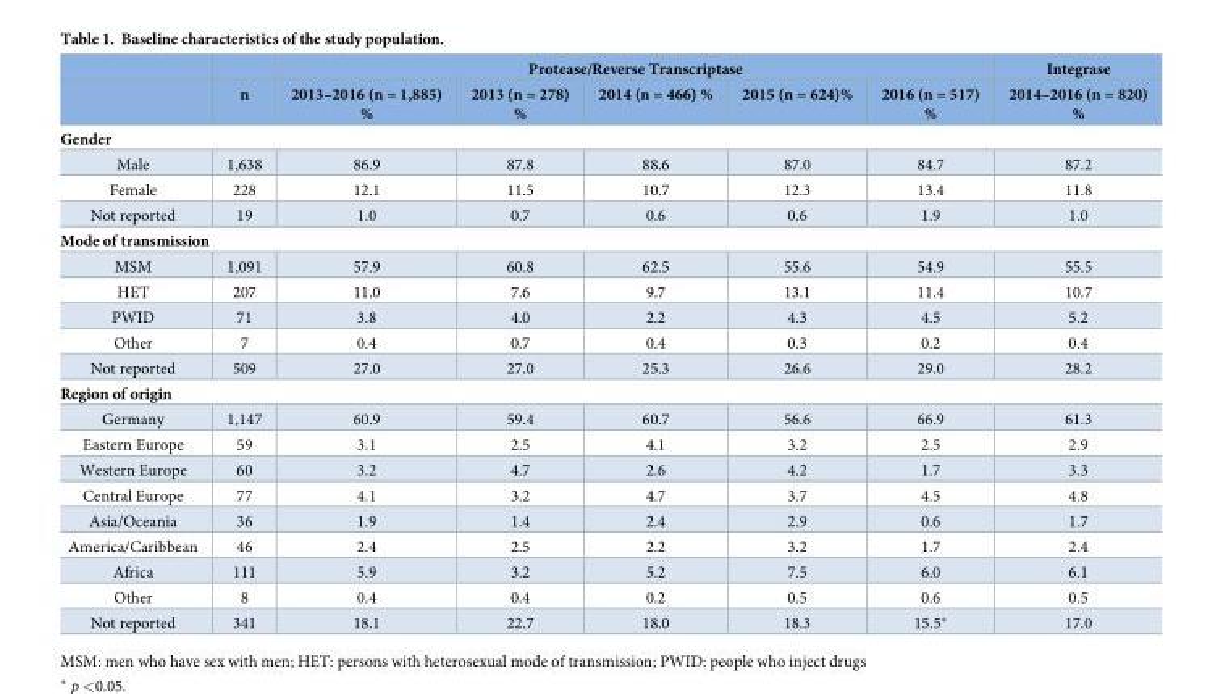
<table><thead><tr><td rowspan="2"></td><td rowspan="2">n</td><td colspan="5">Protease/Reverse Transcriptase</td><td rowspan="2">Integrase 2014–2016 (n = 820) %</td></tr><tr><td>2013–2016 (n = 1,885) %</td><td>2013 (n = 278) %</td><td>2014 (n = 466) %</td><td>2015 (n = 624)%</td><td>2016 (n = 517) %</td></tr></thead><tbody><tr><td colspan="8">Gender</td></tr><tr><td>Male</td><td>1,638</td><td>86.9</td><td>87.8</td><td>88.6</td><td>87.0</td><td>84.7</td><td>87.2</td></tr><tr><td>Female</td><td>228</td><td>12.1</td><td>11.5</td><td>10.7</td><td>12.3</td><td>13.4</td><td>11.8</td></tr><tr><td>Not reported</td><td>19</td><td>1.0</td><td>0.7</td><td>0.6</td><td>0.6</td><td>1.9</td><td>1.0</td></tr><tr><td colspan="8">Mode of transmission</td></tr><tr><td>MSM</td><td>1,091</td><td>57.9</td><td>60.8</td><td>62.5</td><td>55.6</td><td>54.9</td><td>55.5</td></tr><tr><td>HET</td><td>207</td><td>11.0</td><td>7.6</td><td>9.7</td><td>13.1</td><td>11.4</td><td>10.7</td></tr><tr><td>PWID</td><td>71</td><td>3.8</td><td>4.0</td><td>2.2</td><td>4.3</td><td>4.5</td><td>5.2</td></tr><tr><td>Other</td><td>7</td><td>0.4</td><td>0.7</td><td>0.4</td><td>0.3</td><td>0.2</td><td>0.4</td></tr><tr><td>Not reported</td><td>509</td><td>27.0</td><td>27.0</td><td>25.3</td><td>26.6</td><td>29.0</td><td>28.2</td></tr><tr><td colspan="8">Region of origin</td></tr><tr><td>Germany</td><td>1,147</td><td>60.9</td><td>59.4</td><td>60.7</td><td>56.6</td><td>66.9</td><td>61.3</td></tr><tr><td>Eastern Europe</td><td>59</td><td>3.1</td><td>2.5</td><td>4.1</td><td>3.2</td><td>2.5</td><td>2.9</td></tr><tr><td>Western Europe</td><td>60</td><td>3.2</td><td>4.7</td><td>2.6</td><td>4.2</td><td>1.7</td><td>3.3</td></tr><tr><td>Central Europe</td><td>77</td><td>4.1</td><td>3.2</td><td>4.7</td><td>3.7</td><td>4.5</td><td>4.8</td></tr><tr><td>Asia/Oceania</td><td>36</td><td>1.9</td><td>1.4</td><td>2.4</td><td>2.9</td><td>0.6</td><td>1.7</td></tr><tr><td>America/Caribbean</td><td>46</td><td>2.4</td><td>2.5</td><td>2.2</td><td>3.2</td><td>1.7</td><td>2.4</td></tr><tr><td>Africa</td><td>111</td><td>5.9</td><td>3.2</td><td>5.2</td><td>7.5</td><td>6.0</td><td>6.1</td></tr><tr><td>Other</td><td>8</td><td>0.4</td><td>0.4</td><td>0.2</td><td>0.5</td><td>0.6</td><td>0.5</td></tr><tr><td>Not reported</td><td>341</td><td>18.1</td><td>22.7</td><td>18.0</td><td>18.3</td><td>15.5*</td><td>17.0</td></tr></tbody></table>